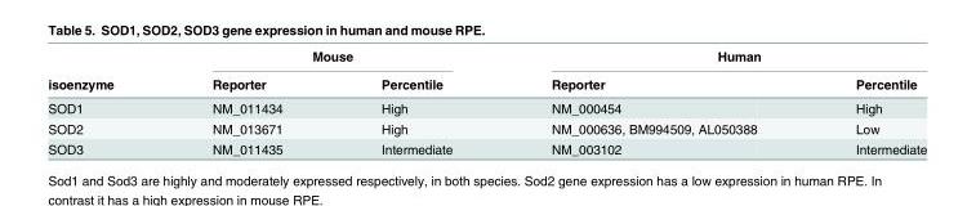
<table><thead><tr><td rowspan="2">isoenzyme</td><td colspan="2">Mouse</td><td colspan="2">Human</td></tr><tr><td>Reporter</td><td>Percentile</td><td>Reporter</td><td>Percentile</td></tr></thead><tbody><tr><td>SOD1</td><td>NM_011434</td><td>High</td><td>NM_000454</td><td>High</td></tr><tr><td>SOD2</td><td>NM_013671</td><td>High</td><td>NM_000636, BM994509, AL050388</td><td>Low</td></tr><tr><td>SOD3</td><td>NM_011435</td><td>Intermediate</td><td>NM_003102</td><td>Intermediate</td></tr></tbody></table>